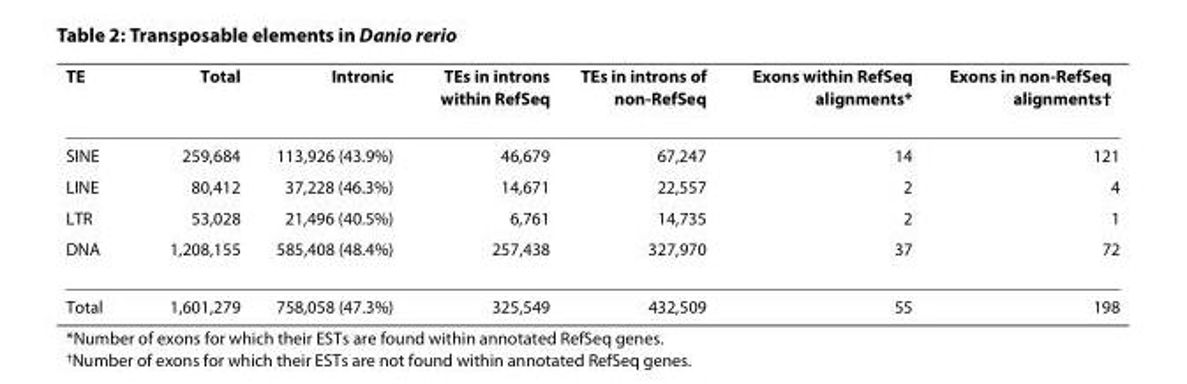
<table><thead><tr><td>TE</td><td>Total</td><td>Intronic</td><td>TEs in introns within RefSeq</td><td>TEs in introns of non-RefSeq</td><td>Exons within RefSeq alignments*</td><td>Exons in non-RefSeq alignments<sup>†</sup></td></tr></thead><tbody><tr><td>SINE</td><td>259,684</td><td>113,926 (43.9%)</td><td>46,679</td><td>67,247</td><td>14</td><td>121</td></tr><tr><td>LINE</td><td>80,412</td><td>37,228 (46.3%)</td><td>14,671</td><td>22,557</td><td>2</td><td>4</td></tr><tr><td>LTR</td><td>53,028</td><td>21,496 (40.5%)</td><td>6,761</td><td>14,735</td><td>2</td><td>1</td></tr><tr><td>DNA</td><td>1,208,155</td><td>585,408 (48.4%)</td><td>257,438</td><td>327,970</td><td>37</td><td>72</td></tr><tr><td>Total</td><td>1,601,279</td><td>758,058 (47.3%)</td><td>325,549</td><td>432,509</td><td>55</td><td>198</td></tr></tbody></table>